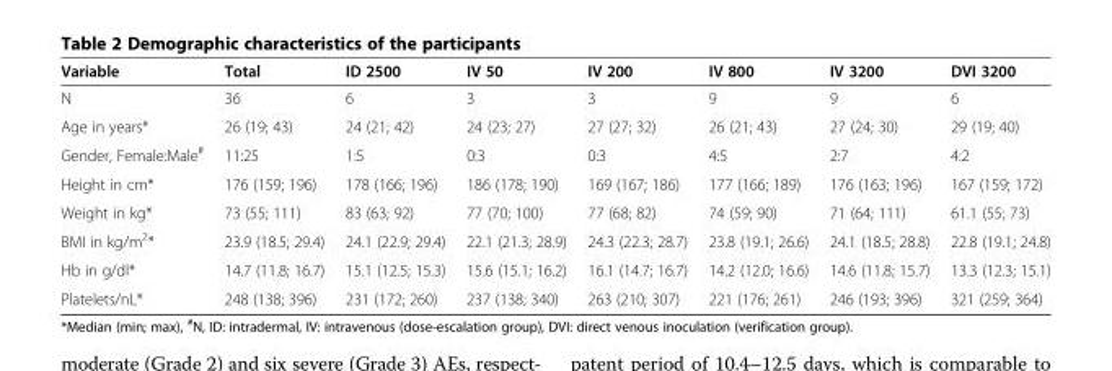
<table><thead><tr><td>Variable</td><td>Total</td><td>ID 2500</td><td>IV 50</td><td>IV 200</td><td>IV 800</td><td>IV 3200</td><td>DVI 3200</td></tr></thead><tbody><tr><td>N</td><td>36</td><td>6</td><td>3</td><td>3</td><td>9</td><td>9</td><td>6</td></tr><tr><td>Age in years*</td><td>26 (19; 43)</td><td>24 (21; 42)</td><td>24 (23; 27)</td><td>27 (27; 32)</td><td>26 (21; 43)</td><td>27 (24; 30)</td><td>29 (19; 40)</td></tr><tr><td>Gender, Female:Male<sup>#</sup></td><td>11:25</td><td>1:5</td><td>0:3</td><td>0:3</td><td>4:5</td><td>2:7</td><td>4:2</td></tr><tr><td>Height in cm*</td><td>176 (159; 196)</td><td>178 (166; 196)</td><td>186 (178; 190)</td><td>169 (167; 186)</td><td>177 (166; 189)</td><td>176 (163; 196)</td><td>167 (159; 172)</td></tr><tr><td>Weight in kg*</td><td>73 (55; 111)</td><td>83 (63; 92)</td><td>77 (70; 100)</td><td>77 (68; 82)</td><td>74 (59; 90)</td><td>71 (64; 111)</td><td>61.1 (55; 73)</td></tr><tr><td>BMI in kg/m<sup>2</sup>*</td><td>23.9 (18.5; 29.4)</td><td>24.1 (22.9; 29.4)</td><td>22.1 (21.3; 28.9)</td><td>24.3 (22.3; 28.7)</td><td>23.8 (19.1; 26.6)</td><td>24.1 (18.5; 28.8)</td><td>22.8 (19.1; 24.8)</td></tr><tr><td>Hb in g/dl*</td><td>14.7 (11.8; 16.7)</td><td>15.1 (12.5; 15.3)</td><td>15.6 (15.1; 16.2)</td><td>16.1 (14.7; 16.7)</td><td>14.2 (12.0; 16.6)</td><td>14.6 (11.8; 15.7)</td><td>13.3 (12.3; 15.1)</td></tr><tr><td>Platelets/nL*</td><td>248 (138; 396)</td><td>231 (172; 260)</td><td>237 (138; 340)</td><td>263 (210; 307)</td><td>221 (176; 261)</td><td>246 (193; 396)</td><td>321 (259; 364)</td></tr></tbody></table>